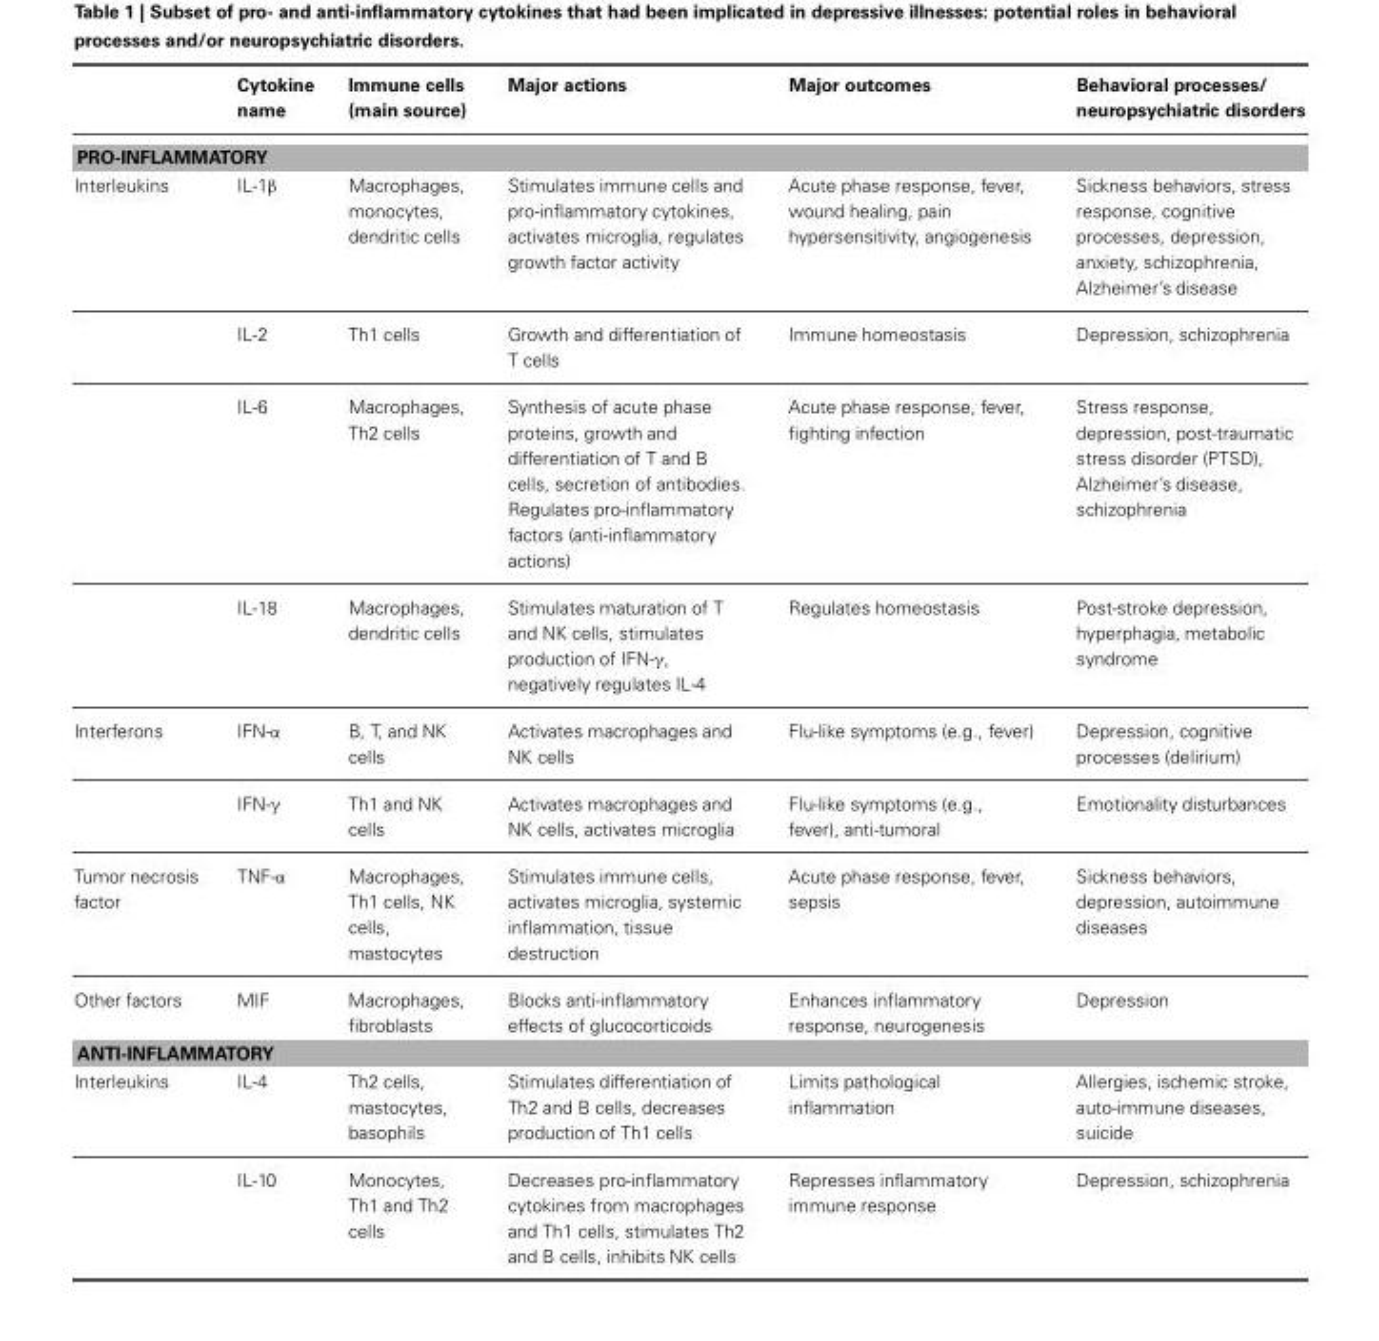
<table><thead><tr><td></td><td>Cytokine name</td><td>Immune cells (main source)</td><td>Major actions</td><td>Major outcomes</td><td>Behavioral processes/ neuropsychiatric disorders</td></tr></thead><tbody><tr><td colspan="6">PRO-INFLAMMATORY</td></tr><tr><td rowspan="4">Interleukins</td><td>IL-1β</td><td>Macrophages, monocytes, dendritic cells</td><td>Stimulates immune cells and pro-inflammatory cytokines, activates microglia, regulates growth factor activity</td><td>Acute phase response, fever, wound healing, pain hypersensitivity, angiogenesis</td><td>Sickness behaviors, stress response, cognitive processes, depression, anxiety, schizophrenia, Alzheimer’s disease</td></tr><tr><td>IL-2</td><td>Th1 cells</td><td>Growth and differentiation of T cells</td><td>Immune homeostasis</td><td>Depression, schizophrenia</td></tr><tr><td>IL-6</td><td>Macrophages, Th2 cells</td><td>Synthesis of acute phase proteins, growth and differentiation of T and B cells, secretion of antibodies. Regulates pro-inflammatory factors (anti-inflammatory actions)</td><td>Acute phase response, fever, fighting infection</td><td>Stress response, depression, post-traumatic stress disorder (PTSD), Alzheimer’s disease, schizophrenia</td></tr><tr><td>IL-18</td><td>Macrophages, dendritic cells</td><td>Stimulates maturation of T and NK cells, stimulates production of IFN-γ, negatively regulates IL-4</td><td>Regulates homeostasis</td><td>Post-stroke depression, hyperphagia, metabolic syndrome</td></tr><tr><td rowspan="2">Interferons</td><td>IFN-α</td><td>B, T, and NK cells</td><td>Activates macrophages and NK cells</td><td>Flu-like symptoms (e.g., fever)</td><td>Depression, cognitive processes (delirium)</td></tr><tr><td>IFN-γ</td><td>Th1 and NK cells</td><td>Activates macrophages and NK cells, activates microglia</td><td>Flu-like symptoms (e.g., fever), anti-tumoral</td><td>Emotionality disturbances</td></tr><tr><td>Tumor necrosis factor</td><td>TNF-α</td><td>Macrophages, Th1 cells, NK cells, mastocytes</td><td>Stimulates immune cells, activates microglia, systemic inflammation, tissue destruction</td><td>Acute phase response, fever, sepsis</td><td>Sickness behaviors, depression, autoimmune diseases</td></tr><tr><td>Other factors</td><td>MIF</td><td>Macrophages, fibroblasts</td><td>Blocks anti-inflammatory effects of glucocorticoids</td><td>Enhances inflammatory response, neurogenesis</td><td>Depression</td></tr><tr><td colspan="6">ANTI-INFLAMMATORY</td></tr><tr><td rowspan="2">Interleukins</td><td>IL-4</td><td>Th2 cells, mastocytes, basophils</td><td>Stimulates differentiation of Th2 and B cells, decreases production of Th1 cells</td><td>Limits pathological inflammation</td><td>Allergies, ischemic stroke, auto-immune diseases, suicide</td></tr><tr><td>IL-10</td><td>Monocytes, Th1 and Th2 cells</td><td>Decreases pro-inflammatory cytokines from macrophages and Th1 cells, stimulates Th2 and B cells, inhibits NK cells</td><td>Represses inflammatory immune response</td><td>Depression, schizophrenia</td></tr></tbody></table>